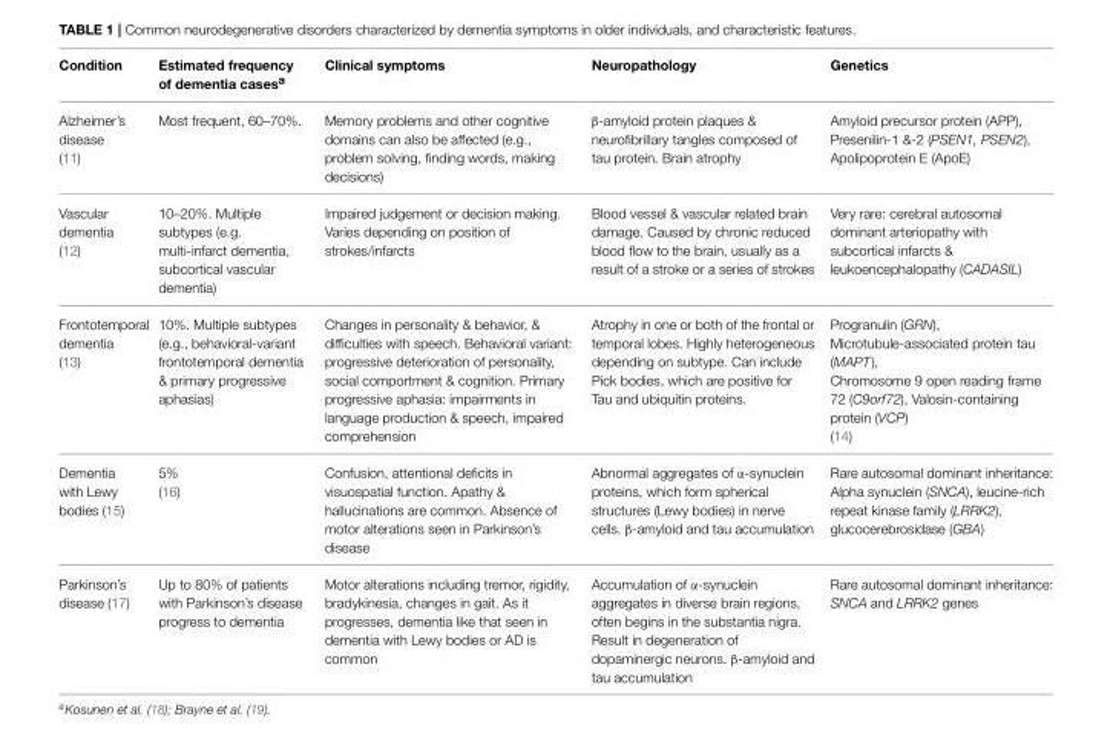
<table><thead><tr><td>Condition</td><td>Estimated frequency of dementia cases<sup>a</sup></td><td>Clinical symptoms</td><td>Neuropathology</td><td>Genetics</td></tr></thead><tbody><tr><td>Alzheimer’s disease (11)</td><td>Most frequent, 60–70%.</td><td>Memory problems and other cognitive domains can also be affected (e.g., problem solving, finding words, making decisions)</td><td>β-amyloid protein plaques &amp; neurofibrillary tangles composed of tau protein. Brain atrophy</td><td>Amyloid precursor protein (APP), Presenilin-1 &amp;-2 (PSEN1, PSEN2), Apolipoprotein E (ApoE)</td></tr><tr><td>Vascular dementia (12)</td><td>10–20%. Multiple subtypes (e.g. multi-infarct dementia, subcortical vascular dementia)</td><td>Impaired judgement or decision making. Varies depending on position of strokes/infarcts</td><td>Blood vessel &amp; vascular related brain damage. Caused by chronic reduced blood flow to the brain, usually as a result of a stroke or a series of strokes</td><td>Very rare: cerebral autosomal dominant arteriopathy with subcortical infarcts &amp; leukoencephalopathy (CADASIL)</td></tr><tr><td>Frontotemporal dementia (13)</td><td>10%. Multiple subtypes (e.g., behavioral-variant frontotemporal dementia &amp; primary progressive aphasias)</td><td>Changes in personality &amp; behavior, &amp; difficulties with speech. Behavioral variant: progressive deterioration of personality, social comportment &amp; cognition. Primary progressive aphasia: impairments in language production &amp; speech, impaired comprehension</td><td>Atrophy in one or both of the frontal or temporal lobes. Highly heterogeneous depending on subtype. Can include Pick bodies, which are positive for Tau and ubiquitin proteins.</td><td>Progranulin (GRN), Microtubule-associated protein tau (MAPT), Chromosome 9 open reading frame 72 (C9orf72), Valosin-containing protein (VCP) (14)</td></tr><tr><td>Dementia with Lewy bodies (15)</td><td>5% (16)</td><td>Confusion, attentional deficits in visuospatial function. Apathy &amp; hallucinations are common. Absence of motor alterations seen in Parkinson’s disease</td><td>Abnormal aggregates of α-synuclein proteins, which form spherical structures (Lewy bodies) in nerve cells. β-amyloid and tau accumulation</td><td>Rare autosomal dominant inheritance: Alpha synuclein (SNCA), leucine-rich repeat kinase family (LRRK2), glucocerebrosidase (GBA)</td></tr><tr><td>Parkinson’s disease (17)</td><td>Up to 80% of patients with Parkinson’s disease progress to dementia</td><td>Motor alterations including tremor, rigidity, bradykinesia, changes in gait. As it progresses, dementia like that seen in dementia with Lewy bodies or AD is common</td><td>Accumulation of α-synuclein aggregates in diverse brain regions, often begins in the substantia nigra. Result in degeneration of dopaminergic neurons. β-amyloid and tau accumulation</td><td>Rare autosomal dominant inheritance: SNCA and LRRK2 genes</td></tr></tbody></table>